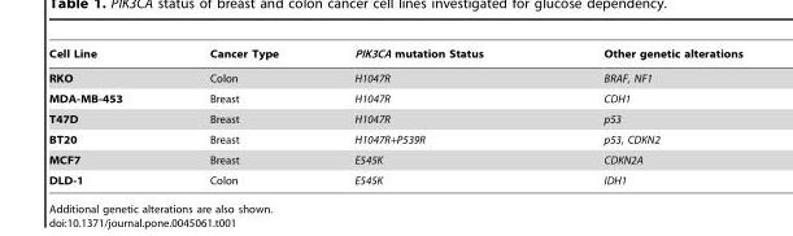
<table><thead><tr><td>Cell Line</td><td>Cancer Type</td><td>PIK3CA mutation Status</td><td>Other genetic alterations</td></tr></thead><tbody><tr><td>RKO</td><td>Colon</td><td>H1047R</td><td>BRAF, NF1</td></tr><tr><td>MDA-MB-453</td><td>Breast</td><td>H1047R</td><td>CDH1</td></tr><tr><td>T47D</td><td>Breast</td><td>H1047R</td><td>p53</td></tr><tr><td>BT20</td><td>Breast</td><td>H1047R+P539R</td><td>p53, CDKN2</td></tr><tr><td>MCF7</td><td>Breast</td><td>E545K</td><td>CDKN2A</td></tr><tr><td>DLD-1</td><td>Colon</td><td>E545K</td><td>IDH1</td></tr></tbody></table>